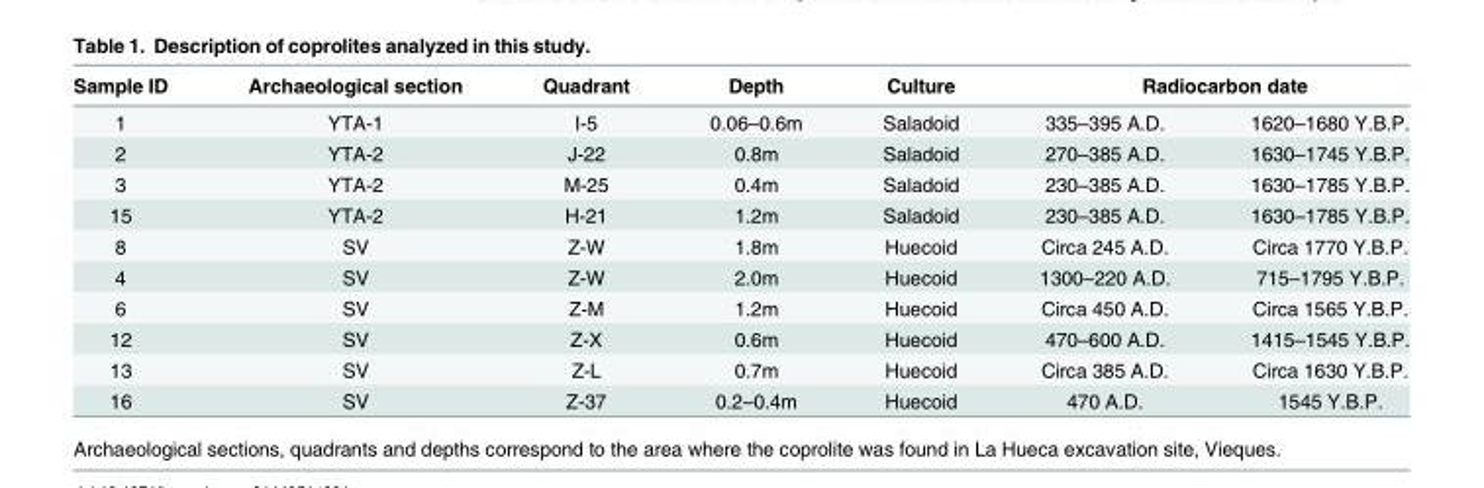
<table><thead><tr><td rowspan="2">Sample ID 1</td><td rowspan="2">Archaeological section YTA-1</td><td rowspan="2">Quadrant I-5</td><td rowspan="2">Depth 0.06–0.6m</td><td rowspan="2">Culture Saladoid</td><td colspan="2">Radiocarbon date</td></tr><tr><td>335–395 A.D.</td><td>1620–1680 Y.B.P.</td></tr></thead><tbody><tr><td>2</td><td>YTA-2</td><td>J-22</td><td>0.8m</td><td>Saladoid</td><td>270–385 A.D.</td><td>1630–1745 Y.B.P.</td></tr><tr><td>3</td><td>YTA-2</td><td>M-25</td><td>0.4m</td><td>Saladoid</td><td>230–385 A.D.</td><td>1630–1785 Y.B.P.</td></tr><tr><td>15</td><td>YTA-2</td><td>H-21</td><td>1.2m</td><td>Saladoid</td><td>230–385 A.D.</td><td>1630–1785 Y.B.P.</td></tr><tr><td>8</td><td>SV</td><td>Z-W</td><td>1.8m</td><td>Huecoid</td><td>Circa 245 A.D.</td><td>Circa 1770 Y.B.P.</td></tr><tr><td>4</td><td>SV</td><td>Z-W</td><td>2.0m</td><td>Huecoid</td><td>1300–220 A.D.</td><td>715–1795 Y.B.P.</td></tr><tr><td>6</td><td>SV</td><td>Z-M</td><td>1.2m</td><td>Huecoid</td><td>Circa 450 A.D.</td><td>Circa 1565 Y.B.P.</td></tr><tr><td>12</td><td>SV</td><td>Z-X</td><td>0.6m</td><td>Huecoid</td><td>470–600 A.D.</td><td>1415–1545 Y.B.P.</td></tr><tr><td>13</td><td>SV</td><td>Z-L</td><td>0.7m</td><td>Huecoid</td><td>Circa 385 A.D.</td><td>Circa 1630 Y.B.P.</td></tr><tr><td>16</td><td>SV</td><td>Z-37</td><td>0.2–0.4m</td><td>Huecoid</td><td>470 A.D.</td><td>1545 Y.B.P.</td></tr></tbody></table>